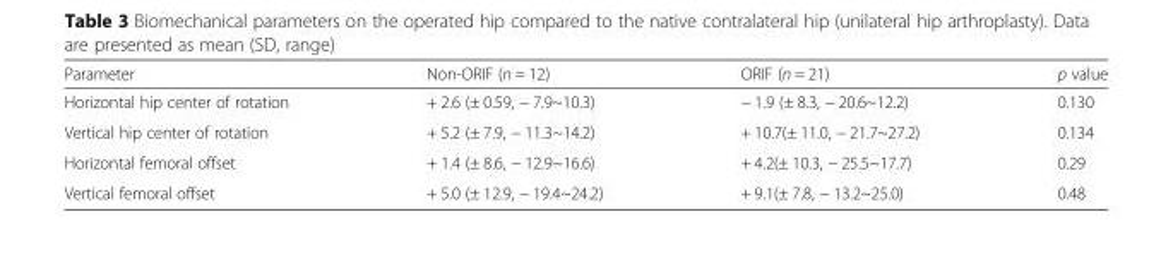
<table><thead><tr><td>Parameter</td><td>Non-ORIF (n = 12)</td><td>ORIF (n = 21)</td><td>p value</td></tr></thead><tbody><tr><td>Horizontal hip center of rotation</td><td>+ 2.6 (± 0.59, − 7.9~10.3)</td><td>− 1.9 (± 8.3, − 20.6~12.2)</td><td>0.130</td></tr><tr><td>Vertical hip center of rotation</td><td>+ 5.2 (± 7.9, − 11.3~14.2)</td><td>+ 10.7(± 11.0, − 21.7~27.2)</td><td>0.134</td></tr><tr><td>Horizontal femoral offset</td><td>+ 1.4 (± 8.6, − 12.9~16.6)</td><td>+ 4.2(± 10.3, − 25.5~17.7)</td><td>0.29</td></tr><tr><td>Vertical femoral offset</td><td>+ 5.0 (± 12.9, − 19.4~24.2)</td><td>+ 9.1(± 7.8, − 13.2~25.0)</td><td>0.48</td></tr></tbody></table>